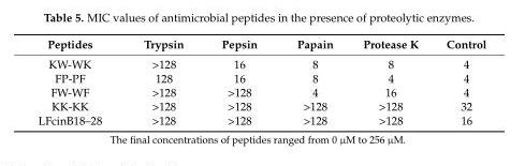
<table><thead><tr><td>Peptides</td><td>Trypsin</td><td>Pepsin</td><td>Papain</td><td>Protease K</td><td>Control</td></tr></thead><tbody><tr><td>KW-WK</td><td>&gt;128</td><td>16</td><td>8</td><td>8</td><td>4</td></tr><tr><td>FP-PF</td><td>128</td><td>16</td><td>8</td><td>4</td><td>4</td></tr><tr><td>FW-WF</td><td>&gt;128</td><td>&gt;128</td><td>4</td><td>16</td><td>4</td></tr><tr><td>KK-KK</td><td>&gt;128</td><td>&gt;128</td><td>&gt;128</td><td>&gt;128</td><td>32</td></tr><tr><td>LFcinB18–28</td><td>&gt;128</td><td>&gt;128</td><td>&gt;128</td><td>&gt;128</td><td>16</td></tr></tbody></table>